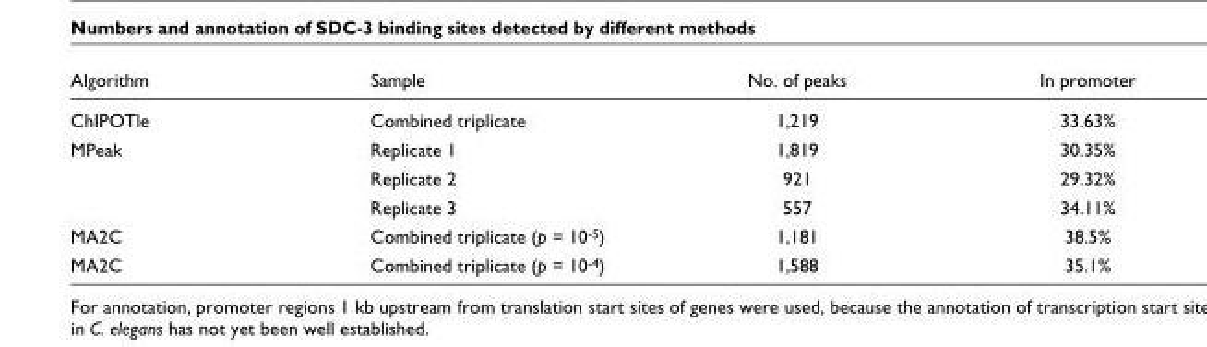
<table><thead><tr><td>Algorithm</td><td>Sample</td><td>No. of peaks</td><td>In promoter</td></tr></thead><tbody><tr><td>ChIPOTle</td><td>Combined triplicate</td><td>1,219</td><td>33.63%</td></tr><tr><td rowspan="3">MPeak</td><td>Replicate 1</td><td>1,819</td><td>30.35%</td></tr><tr><td>Replicate 2</td><td>921</td><td>29.32%</td></tr><tr><td>Replicate 3</td><td>557</td><td>34.11%</td></tr><tr><td>MA2C</td><td>Combined triplicate (p = 10<sup>-5</sup>)</td><td>1,181</td><td>38.5%</td></tr><tr><td>MA2C</td><td>Combined triplicate (p = 10<sup>-4</sup>)</td><td>1,588</td><td>35.1%</td></tr></tbody></table>